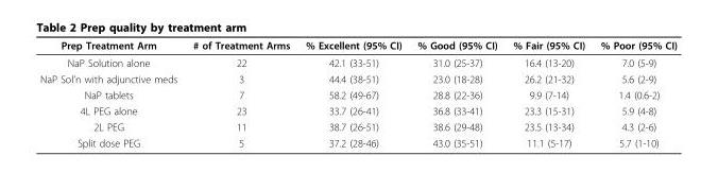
<table><thead><tr><td>Prep Treatment Arm</td><td># of Treatment Arms</td><td>% Excellent (95% CI)</td><td>% Good (95% CI)</td><td>% Fair (95% CI)</td><td>% Poor (95% CI)</td></tr></thead><tbody><tr><td>NaP Solution alone</td><td>22</td><td>42.1 (33-51)</td><td>31.0 (25-37)</td><td>16.4 (13-20)</td><td>7.0 (5-9)</td></tr><tr><td>NaP Sol’n with adjunctive meds</td><td>3</td><td>44.4 (38-51)</td><td>23.0 (18-28)</td><td>26.2 (21-32)</td><td>5.6 (2-9)</td></tr><tr><td>NaP tablets</td><td>7</td><td>58.2 (49-67)</td><td>28.8 (22-36)</td><td>9.9 (7-14)</td><td>1.4 (0.6-2)</td></tr><tr><td>4L PEG alone</td><td>23</td><td>33.7 (26-41)</td><td>36.8 (33-41)</td><td>23.3 (15-31)</td><td>5.9 (4-8)</td></tr><tr><td>2L PEG</td><td>11</td><td>38.7 (26-51)</td><td>38.6 (29-48)</td><td>23.5 (13-34)</td><td>4.3 (2-6)</td></tr><tr><td>Split dose PEG</td><td>5</td><td>37.2 (28-46)</td><td>43.0 (35-51)</td><td>11.1 (5-17)</td><td>5.7 (1-10)</td></tr></tbody></table>